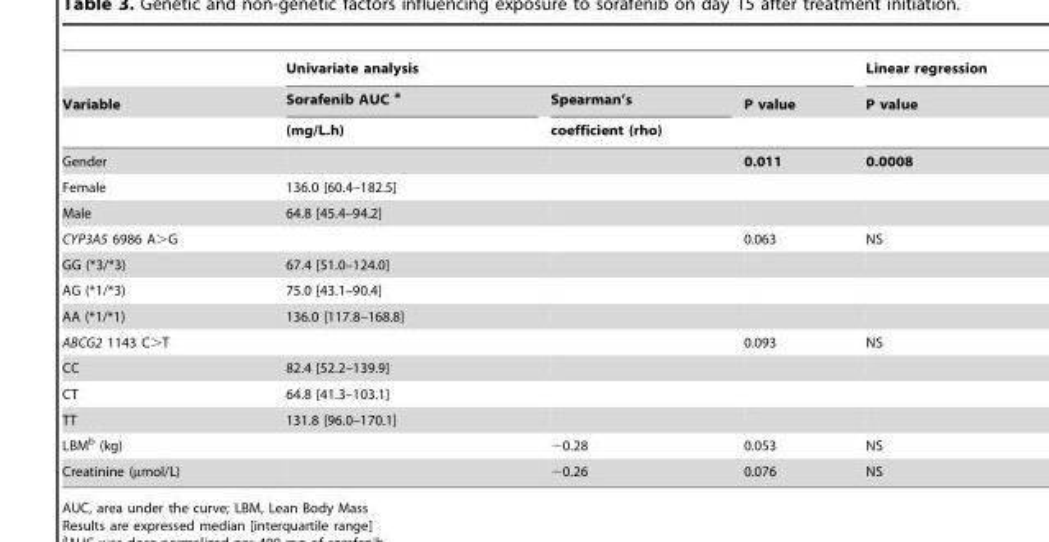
<table><thead><tr><td rowspan="3">Variable</td><td colspan="3">Univariate analysis</td><td rowspan="3">Linear regression P value</td></tr><tr><td rowspan="2">Sorafenib AUC a (mg/L.h)</td><td rowspan="2">Spearman’s coefficient (rho)</td><td rowspan="2">P value</td></tr><tr></tr></thead><tbody><tr><td>Gender</td><td></td><td></td><td>0.011</td><td>0.0008</td></tr><tr><td>Female</td><td>136.0 [60.4–182.5]</td><td></td><td></td><td></td></tr><tr><td>Male</td><td>64.8 [45.4–94.2]</td><td></td><td></td><td></td></tr><tr><td>CYP3A5 6986 A&gt;G</td><td></td><td></td><td>0.063</td><td>NS</td></tr><tr><td>GG (*3/*3)</td><td>67.4 [51.0–124.0]</td><td></td><td></td><td></td></tr><tr><td>AG (*1/*3)</td><td>75.0 [43.1–90.4]</td><td></td><td></td><td></td></tr><tr><td>AA (*1/*1)</td><td>136.0 [117.8–168.8]</td><td></td><td></td><td></td></tr><tr><td>ABCG2 1143 C&gt;T</td><td></td><td></td><td>0.093</td><td>NS</td></tr><tr><td>CC</td><td>82.4 [52.2–139.9]</td><td></td><td></td><td></td></tr><tr><td>CT</td><td>64.8 [41.3–103.1]</td><td></td><td></td><td></td></tr><tr><td>TT</td><td>131.8 [96.0–170.1]</td><td></td><td></td><td></td></tr><tr><td>LBM<sup>b</sup> (kg)</td><td></td><td>−0.28</td><td>0.053</td><td>NS</td></tr><tr><td>Creatinine (µmol/L)</td><td></td><td>−0.26</td><td>0.076</td><td>NS</td></tr></tbody></table>